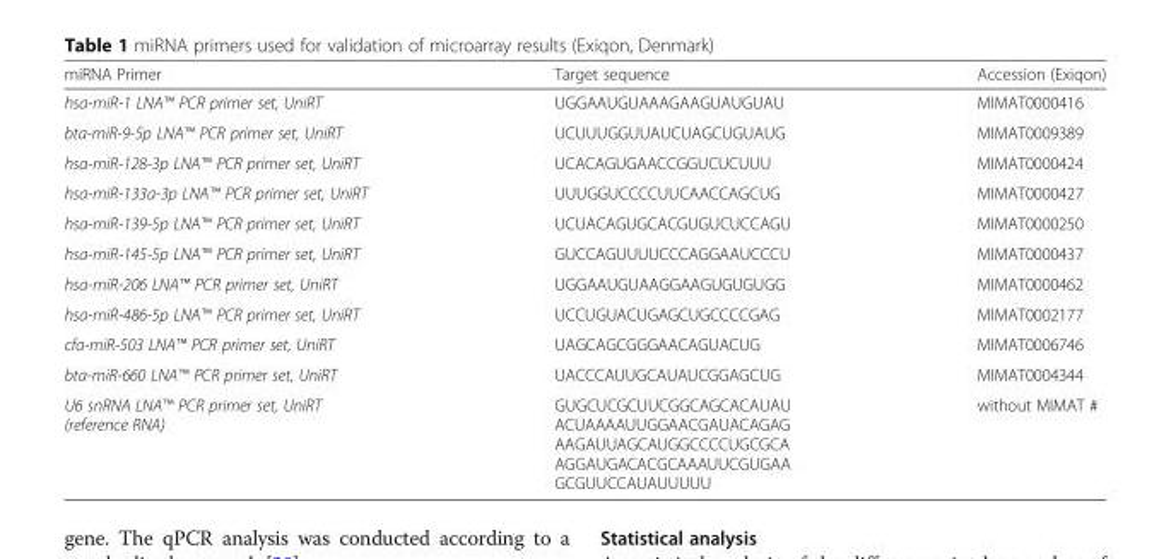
<table><thead><tr><td>miRNA Primer</td><td>Target sequence</td><td>Accession (Exiqon)</td></tr></thead><tbody><tr><td>hsa-miR-1 LNA™ PCR primer set, UniRT</td><td>UGGAAUGUAAAGAAGUAUGUAU</td><td>MIMAT0000416</td></tr><tr><td>bta-miR-9-5p LNA™ PCR primer set, UniRT</td><td>UCUUUGGUUAUCUAGCUGUAUG</td><td>MIMAT0009389</td></tr><tr><td>hsa-miR-128-3p LNA™ PCR primer set, UniRT</td><td>UCACAGUGAACCGGUCUCUUU</td><td>MIMAT0000424</td></tr><tr><td>hsa-miR-133a-3p LNA™ PCR primer set, UniRT</td><td>UUUGGUCCCCUUCAACCAGCUG</td><td>MIMAT0000427</td></tr><tr><td>hsa-miR-139-5p LNA™ PCR primer set, UniRT</td><td>UCUACAGUGCACGUGUCUCCAGU</td><td>MIMAT0000250</td></tr><tr><td>hsa-miR-145-5p LNA™ PCR primer set, UniRT</td><td>GUCCAGUUUUCCCAGGAAUCCCU</td><td>MIMAT0000437</td></tr><tr><td>hsa-miR-206 LNA™ PCR primer set, UniRT</td><td>UGGAAUGUAAGGAAGUGUGUGG</td><td>MIMAT0000462</td></tr><tr><td>hsa-miR-486-5p LNA™ PCR primer set, UniRT</td><td>UCCUGUACUGAGCUGCCCCGAG</td><td>MIMAT0002177</td></tr><tr><td>cfa-miR-503 LNA™ PCR primer set, UniRT</td><td>UAGCAGCGGGAACAGUACUG</td><td>MIMAT0006746</td></tr><tr><td>bta-miR-660 LNA™ PCR primer set, UniRT</td><td>UACCCAUUGCAUAUCGGAGCUG</td><td>MIMAT0004344</td></tr><tr><td>U6 snRNA LNA™ PCR primer set, UniRT (reference RNA)</td><td>GUGCUCGCUUCGGCAGCACAUAU ACUAAAAUUGGAACGAUACAGAG AAGAUUAGCAUGGCCCCUGCGCA AGGAUGACACGCAAAUUCGUGAA GCGUUCCAUAUUUUU</td><td>without MIMAT #</td></tr></tbody></table>